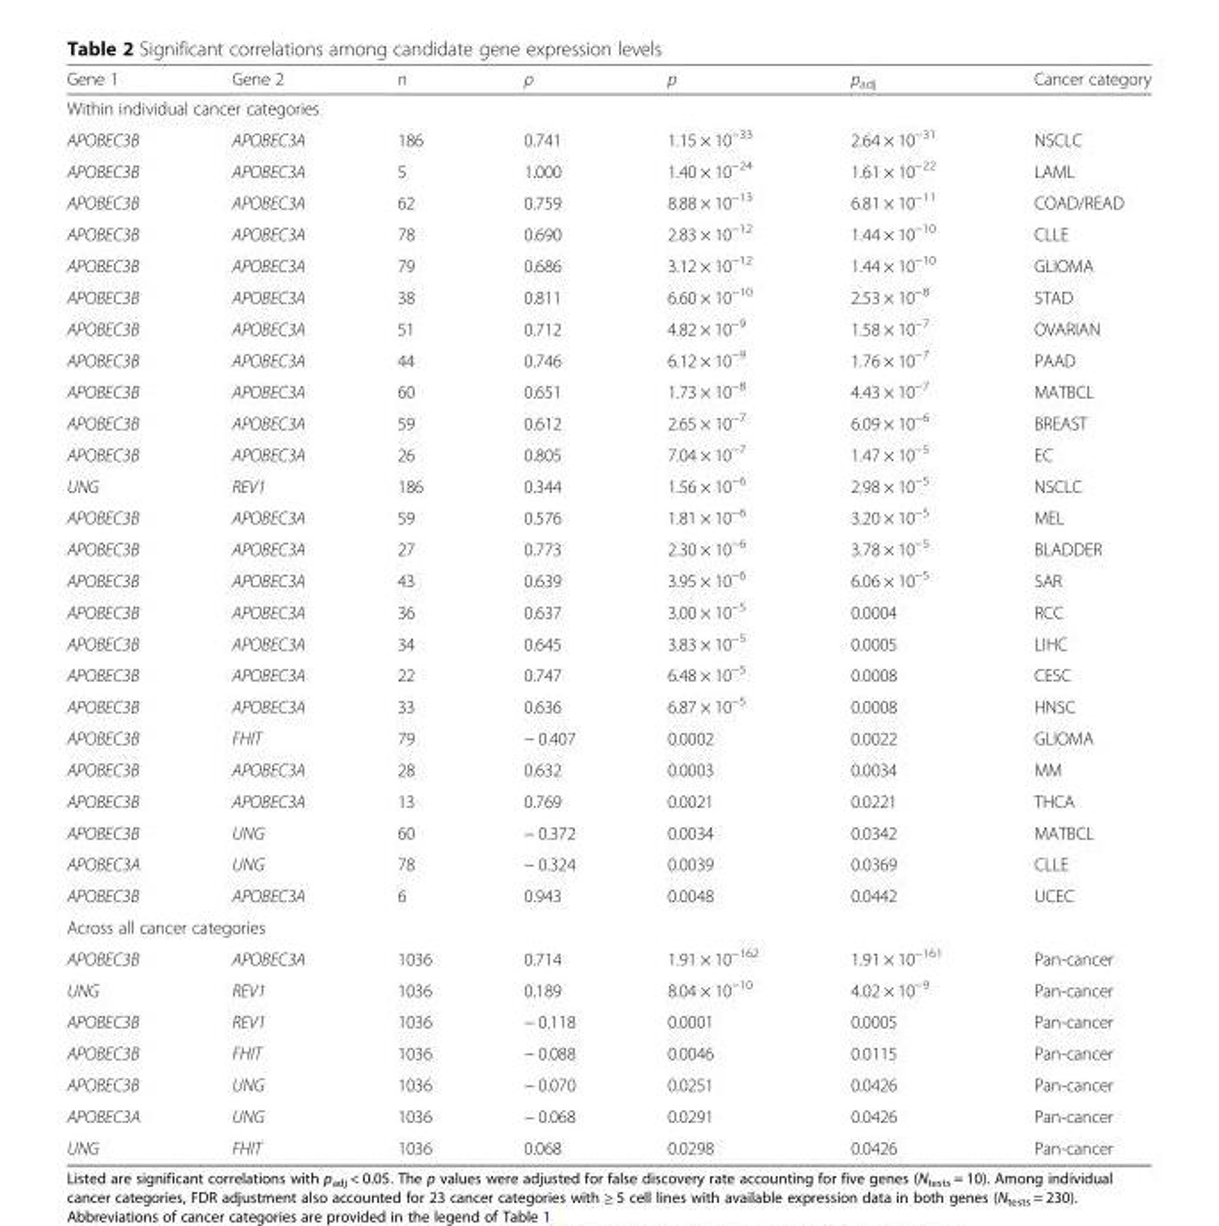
<table><thead><tr><td>Gene 1</td><td>Gene 2</td><td>n</td><td>ρ</td><td>p</td><td>p<sub>adj</sub></td><td>Cancer category</td></tr></thead><tbody><tr><td colspan="7">Within individual cancer categories</td></tr><tr><td>APOBEC3B</td><td>APOBEC3A</td><td>186</td><td>0.741</td><td>1.15 × 10<sup>−33</sup></td><td>2.64 × 10<sup>−31</sup></td><td>NSCLC</td></tr><tr><td>APOBEC3B</td><td>APOBEC3A</td><td>5</td><td>1.000</td><td>1.40 × 10<sup>−24</sup></td><td>1.61 × 10<sup>−22</sup></td><td>LAML</td></tr><tr><td>APOBEC3B</td><td>APOBEC3A</td><td>62</td><td>0.759</td><td>8.88 × 10<sup>−13</sup></td><td>6.81 × 10<sup>−11</sup></td><td>COAD/READ</td></tr><tr><td>APOBEC3B</td><td>APOBEC3A</td><td>78</td><td>0.690</td><td>2.83 × 10<sup>−12</sup></td><td>1.44 × 10<sup>−10</sup></td><td>CLLE</td></tr><tr><td>APOBEC3B</td><td>APOBEC3A</td><td>79</td><td>0.686</td><td>3.12 × 10<sup>−12</sup></td><td>1.44 × 10<sup>−10</sup></td><td>GLIOMA</td></tr><tr><td>APOBEC3B</td><td>APOBEC3A</td><td>38</td><td>0.811</td><td>6.60 × 10<sup>−10</sup></td><td>2.53 × 10<sup>−8</sup></td><td>STAD</td></tr><tr><td>APOBEC3B</td><td>APOBEC3A</td><td>51</td><td>0.712</td><td>4.82 × 10<sup>−9</sup></td><td>1.58 × 10<sup>−7</sup></td><td>OVARIAN</td></tr><tr><td>APOBEC3B</td><td>APOBEC3A</td><td>44</td><td>0.746</td><td>6.12 × 10<sup>−9</sup></td><td>1.76 × 10<sup>−7</sup></td><td>PAAD</td></tr><tr><td>APOBEC3B</td><td>APOBEC3A</td><td>60</td><td>0.651</td><td>1.73 × 10<sup>−8</sup></td><td>4.43 × 10<sup>−7</sup></td><td>MATBCL</td></tr><tr><td>APOBEC3B</td><td>APOBEC3A</td><td>59</td><td>0.612</td><td>2.65 × 10<sup>−7</sup></td><td>6.09 × 10<sup>−6</sup></td><td>BREAST</td></tr><tr><td>APOBEC3B</td><td>APOBEC3A</td><td>26</td><td>0.805</td><td>7.04 × 10<sup>−7</sup></td><td>1.47 × 10<sup>−5</sup></td><td>EC</td></tr><tr><td>UNG</td><td>REV1</td><td>186</td><td>0.344</td><td>1.56 × 10<sup>−6</sup></td><td>2.98 × 10<sup>−5</sup></td><td>NSCLC</td></tr><tr><td>APOBEC3B</td><td>APOBEC3A</td><td>59</td><td>0.576</td><td>1.81 × 10<sup>−6</sup></td><td>3.20 × 10<sup>−5</sup></td><td>MEL</td></tr><tr><td>APOBEC3B</td><td>APOBEC3A</td><td>27</td><td>0.773</td><td>2.30 × 10<sup>−6</sup></td><td>3.78 × 10<sup>−5</sup></td><td>BLADDER</td></tr><tr><td>APOBEC3B</td><td>APOBEC3A</td><td>43</td><td>0.639</td><td>3.95 × 10<sup>−6</sup></td><td>6.06 × 10<sup>−5</sup></td><td>SAR</td></tr><tr><td>APOBEC3B</td><td>APOBEC3A</td><td>36</td><td>0.637</td><td>3.00 × 10<sup>−5</sup></td><td>0.0004</td><td>RCC</td></tr><tr><td>APOBEC3B</td><td>APOBEC3A</td><td>34</td><td>0.645</td><td>3.83 × 10<sup>−5</sup></td><td>0.0005</td><td>LIHC</td></tr><tr><td>APOBEC3B</td><td>APOBEC3A</td><td>22</td><td>0.747</td><td>6.48 × 10<sup>−5</sup></td><td>0.0008</td><td>CESC</td></tr><tr><td>APOBEC3B</td><td>APOBEC3A</td><td>33</td><td>0.636</td><td>6.87 × 10<sup>−5</sup></td><td>0.0008</td><td>HNSC</td></tr><tr><td>APOBEC3B</td><td>FHIT</td><td>79</td><td>− 0.407</td><td>0.0002</td><td>0.0022</td><td>GLIOMA</td></tr><tr><td>APOBEC3B</td><td>APOBEC3A</td><td>28</td><td>0.632</td><td>0.0003</td><td>0.0034</td><td>MM</td></tr><tr><td>APOBEC3B</td><td>APOBEC3A</td><td>13</td><td>0.769</td><td>0.0021</td><td>0.0221</td><td>THCA</td></tr><tr><td>APOBEC3B</td><td>UNG</td><td>60</td><td>− 0.372</td><td>0.0034</td><td>0.0342</td><td>MATBCL</td></tr><tr><td>APOBEC3A</td><td>UNG</td><td>78</td><td>− 0.324</td><td>0.0039</td><td>0.0369</td><td>CLLE</td></tr><tr><td>APOBEC3B</td><td>APOBEC3A</td><td>6</td><td>0.943</td><td>0.0048</td><td>0.0442</td><td>UCEC</td></tr><tr><td colspan="7">Across all cancer categories</td></tr><tr><td>APOBEC3B</td><td>APOBEC3A</td><td>1036</td><td>0.714</td><td>1.91 × 10<sup>−162</sup></td><td>1.91 × 10<sup>−161</sup></td><td>Pan-cancer</td></tr><tr><td>UNG</td><td>REV1</td><td>1036</td><td>0.189</td><td>8.04 × 10<sup>−10</sup></td><td>4.02 × 10<sup>−9</sup></td><td>Pan-cancer</td></tr><tr><td>APOBEC3B</td><td>REV1</td><td>1036</td><td>− 0.118</td><td>0.0001</td><td>0.0005</td><td>Pan-cancer</td></tr><tr><td>APOBEC3B</td><td>FHIT</td><td>1036</td><td>− 0.088</td><td>0.0046</td><td>0.0115</td><td>Pan-cancer</td></tr><tr><td>APOBEC3B</td><td>UNG</td><td>1036</td><td>− 0.070</td><td>0.0251</td><td>0.0426</td><td>Pan-cancer</td></tr><tr><td>APOBEC3A</td><td>UNG</td><td>1036</td><td>− 0.068</td><td>0.0291</td><td>0.0426</td><td>Pan-cancer</td></tr><tr><td>UNG</td><td>FHIT</td><td>1036</td><td>0.068</td><td>0.0298</td><td>0.0426</td><td>Pan-cancer</td></tr></tbody></table>